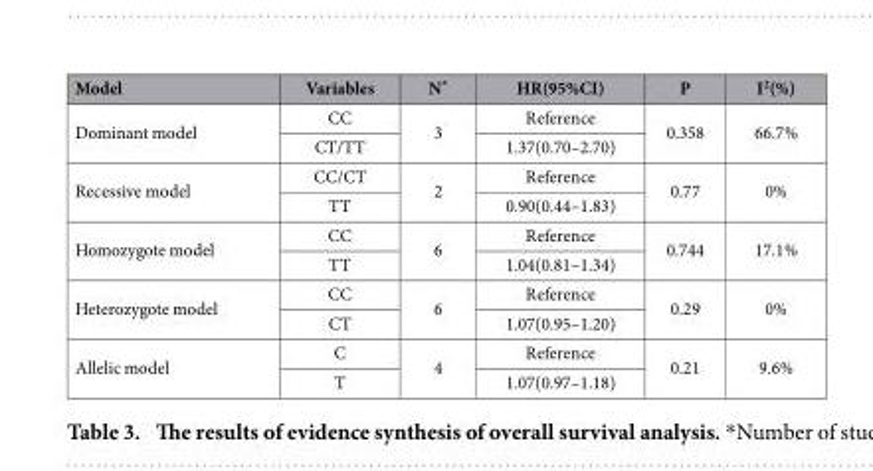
<table><thead><tr><td>Model</td><td>Variables</td><td>N*</td><td>HR(95%CI)</td><td>P</td><td>I<sup>2</sup>(%)</td></tr></thead><tbody><tr><td rowspan="2">Dominant model</td><td>CC</td><td rowspan="2">3</td><td>Reference</td><td rowspan="2">0.358</td><td rowspan="2">66.7%</td></tr><tr><td>CT/TT</td><td>1.37(0.70–2.70)</td></tr><tr><td rowspan="2">Recessive model</td><td>CC/CT</td><td rowspan="2">2</td><td>Reference</td><td rowspan="2">0.77</td><td rowspan="2">0%</td></tr><tr><td>TT</td><td>0.90(0.44–1.83)</td></tr><tr><td rowspan="2">Homozygote model</td><td>CC</td><td rowspan="2">6</td><td>Reference</td><td rowspan="2">0.744</td><td rowspan="2">17.1%</td></tr><tr><td>TT</td><td>1.04(0.81–1.34)</td></tr><tr><td rowspan="2">Heterozygote model</td><td>CC</td><td rowspan="2">6</td><td>Reference</td><td rowspan="2">0.29</td><td rowspan="2">0%</td></tr><tr><td>CT</td><td>1.07(0.95–1.20)</td></tr><tr><td rowspan="2">Allelic model</td><td>C</td><td rowspan="2">4</td><td>Reference</td><td rowspan="2">0.21</td><td rowspan="2">9.6%</td></tr><tr><td>T</td><td>1.07(0.97–1.18)</td></tr></tbody></table>